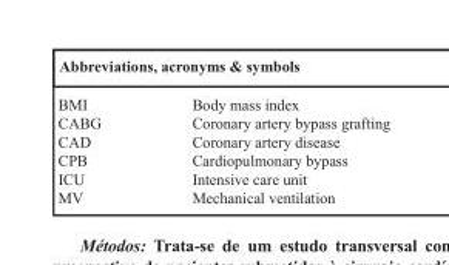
<table><thead><tr><td colspan="2">Abbreviations, acronyms &amp; symbols</td></tr><tr><td>BMI</td><td>Body mass index</td></tr></thead><tbody><tr><td>CABG</td><td>Coronary artery bypass grafting</td></tr><tr><td>CAD</td><td>Coronary artery disease</td></tr><tr><td>CPB</td><td>Cardiopulmonary bypass</td></tr><tr><td>ICU</td><td>Intensive care unit</td></tr><tr><td>MV</td><td>Mechanical ventilation</td></tr></tbody></table>